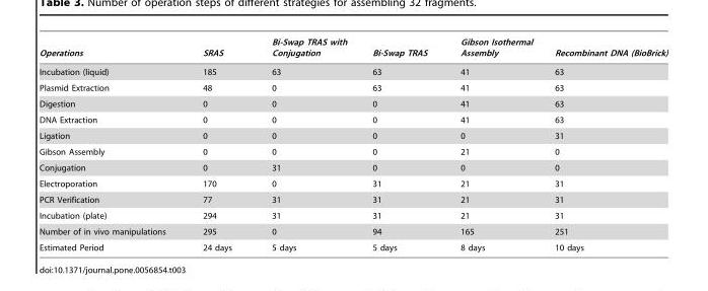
<table><thead><tr><td>Operations</td><td>SRAS</td><td>Bi-Swap TRAS with Conjugation</td><td>Bi-Swap TRAS</td><td>Gibson Isothermal Assembly</td><td>Recombinant DNA (BioBrick)</td></tr></thead><tbody><tr><td>Incubation (liquid)</td><td>185</td><td>63</td><td>63</td><td>41</td><td>63</td></tr><tr><td>Plasmid Extraction</td><td>48</td><td>0</td><td>63</td><td>41</td><td>63</td></tr><tr><td>Digestion</td><td>0</td><td>0</td><td>0</td><td>41</td><td>63</td></tr><tr><td>DNA Extraction</td><td>0</td><td>0</td><td>0</td><td>41</td><td>63</td></tr><tr><td>Ligation</td><td>0</td><td>0</td><td>0</td><td>0</td><td>31</td></tr><tr><td>Gibson Assembly</td><td>0</td><td>0</td><td>0</td><td>21</td><td>0</td></tr><tr><td>Conjugation</td><td>0</td><td>31</td><td>0</td><td>0</td><td>0</td></tr><tr><td>Electroporation</td><td>170</td><td>0</td><td>31</td><td>21</td><td>31</td></tr><tr><td>PCR Verification</td><td>77</td><td>31</td><td>31</td><td>21</td><td>31</td></tr><tr><td>Incubation (plate)</td><td>294</td><td>31</td><td>31</td><td>21</td><td>31</td></tr><tr><td>Number of in vivo manipulations</td><td>295</td><td>0</td><td>94</td><td>165</td><td>251</td></tr><tr><td>Estimated Period</td><td>24 days</td><td>5 days</td><td>5 days</td><td>8 days</td><td>10 days</td></tr></tbody></table>